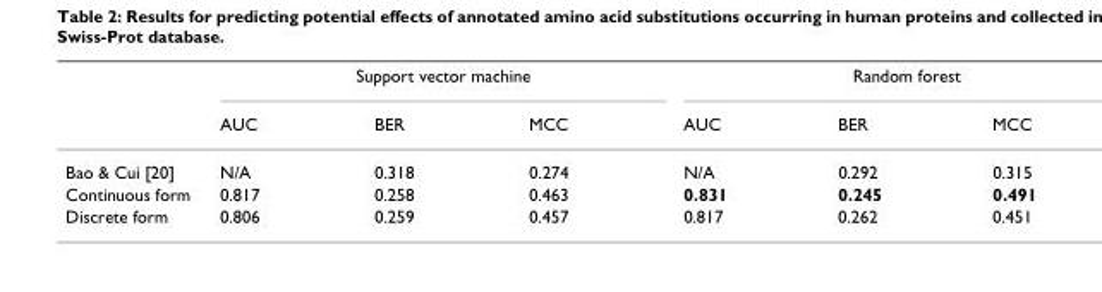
<table><thead><tr><td rowspan="2"></td><td colspan="3">Support vector machine</td><td colspan="3">Random forest</td></tr><tr><td>AUC</td><td>BER</td><td>MCC</td><td>AUC</td><td>BER</td><td>MCC</td></tr></thead><tbody><tr><td>Bao &amp; Cui [20]</td><td>N/A</td><td>0.318</td><td>0.274</td><td>N/A</td><td>0.292</td><td>0.315</td></tr><tr><td>Continuous form</td><td>0.817</td><td>0.258</td><td>0.463</td><td>0.831</td><td>0.245</td><td>0.491</td></tr><tr><td>Discrete form</td><td>0.806</td><td>0.259</td><td>0.457</td><td>0.817</td><td>0.262</td><td>0.451</td></tr></tbody></table>